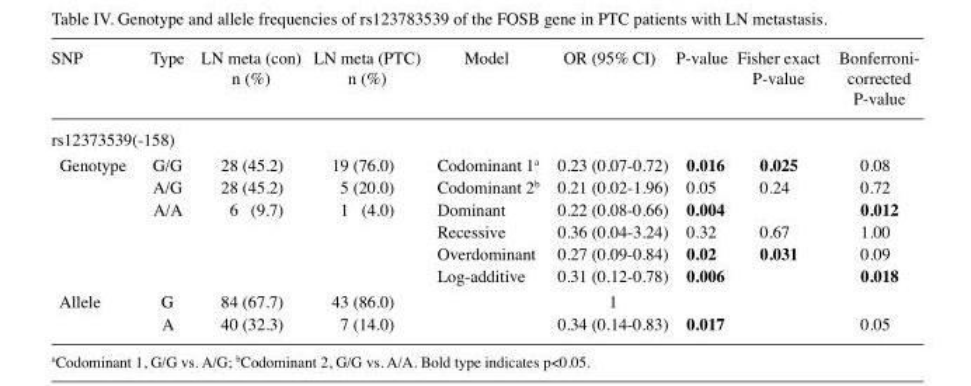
<table><thead><tr><td>SNP</td><td>Type</td><td>LN meta (con) n (%)</td><td>LN meta (PTC) n (%)</td><td>Model</td><td>OR (95% CI)</td><td>P-value</td><td>Fisher exact P-value</td><td>Bonferroni- corrected P-value</td></tr></thead><tbody><tr><td colspan="9">rs12373539(-158)</td></tr><tr><td rowspan="6">Genotype</td><td>G/G</td><td>28 (45.2)</td><td>19 (76.0)</td><td>Codominant 1<sup>a</sup></td><td>0.23 (0.07-0.72)</td><td>0.016</td><td>0.025</td><td>0.08</td></tr><tr><td>A/G</td><td>28 (45.2)</td><td>5 (20.0)</td><td>Codominant 2<sup>b</sup></td><td>0.21 (0.02-1.96)</td><td>0.05</td><td>0.24</td><td>0.72</td></tr><tr><td>A/A</td><td>6 (9.7)</td><td>1 (4.0)</td><td>Dominant</td><td>0.22 (0.08-0.66)</td><td>0.004</td><td></td><td>0.012</td></tr><tr><td></td><td></td><td></td><td>Recessive</td><td>0.36 (0.04-3.24)</td><td>0.32</td><td>0.67</td><td>1.00</td></tr><tr><td></td><td></td><td></td><td>Overdominant</td><td>0.27 (0.09-0.84)</td><td>0.02</td><td>0.031</td><td>0.09</td></tr><tr><td></td><td></td><td></td><td>Log-additive</td><td>0.31 (0.12-0.78)</td><td>0.006</td><td></td><td>0.018</td></tr><tr><td rowspan="2">Allele</td><td>G</td><td>84 (67.7)</td><td>43 (86.0)</td><td></td><td>1</td><td></td><td></td><td></td></tr><tr><td>A</td><td>40 (32.3)</td><td>7 (14.0)</td><td></td><td>0.34 (0.14-0.83)</td><td>0.017</td><td></td><td>0.05</td></tr></tbody></table>